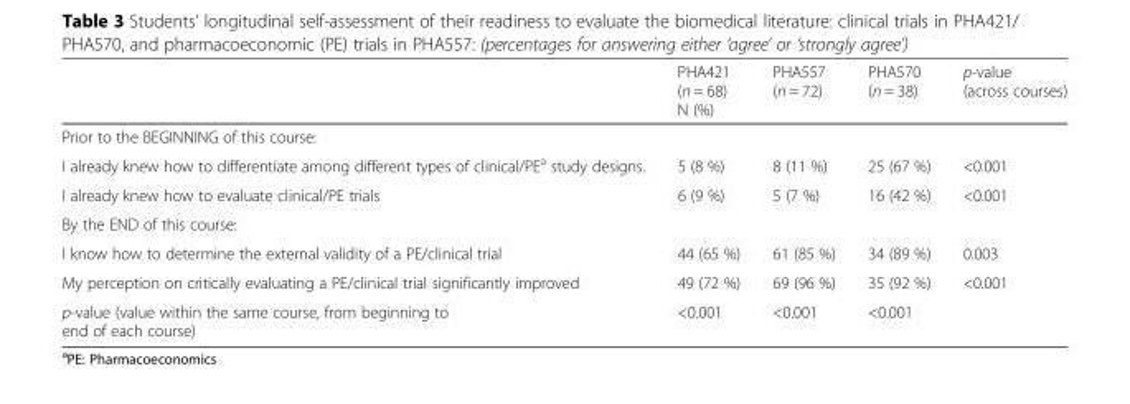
<table><thead><tr><td></td><td>PHA421 (n = 68) N (%)</td><td>PHA557 (n = 72)</td><td>PHA570 (n = 38)</td><td>p-value (across courses)</td></tr></thead><tbody><tr><td colspan="5">Prior to the BEGINNING of this course:</td></tr><tr><td>I already knew how to differentiate among different types of clinical/PE<sup>a</sup> study designs.</td><td>5 (8 %)</td><td>8 (11 %)</td><td>25 (67 %)</td><td>&lt;0.001</td></tr><tr><td>I already knew how to evaluate clinical/PE trials</td><td>6 (9 %)</td><td>5 (7 %)</td><td>16 (42 %)</td><td>&lt;0.001</td></tr><tr><td colspan="5">By the END of this course:</td></tr><tr><td>I know how to determine the external validity of a PE/clinical trial</td><td>44 (65 %)</td><td>61 (85 %)</td><td>34 (89 %)</td><td>0.003</td></tr><tr><td>My perception on critically evaluating a PE/clinical trial significantly improved</td><td>49 (72 %)</td><td>69 (96 %)</td><td>35 (92 %)</td><td>&lt;0.001</td></tr><tr><td>p-value (value within the same course, from beginning to end of each course)</td><td>&lt;0.001</td><td>&lt;0.001</td><td>&lt;0.001</td><td></td></tr></tbody></table>